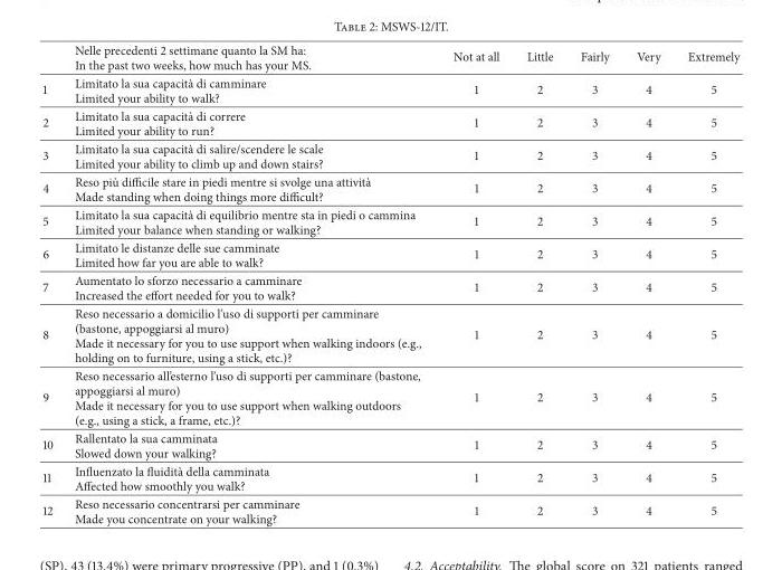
<table><thead><tr><td></td><td>Nelle precedenti 2 settimane quanto la SM ha: In the past two weeks, how much has your MS.</td><td>Not at all</td><td>Little</td><td>Fairly</td><td>Very</td><td>Extremely</td></tr></thead><tbody><tr><td>1</td><td>Limitato la sua capacit`a di camminare Limited your ability to walk?</td><td>1</td><td>2</td><td>3</td><td>4</td><td>5</td></tr><tr><td>2</td><td>Limitato la sua capacit`a di correre Limited your ability to run?</td><td>1</td><td>2</td><td>3</td><td>4</td><td>5</td></tr><tr><td>3</td><td>Limitato la sua capacit`a di salire/scendere le scale Limited your ability to climb up and down stairs?</td><td>1</td><td>2</td><td>3</td><td>4</td><td>5</td></tr><tr><td>4</td><td>Reso pi`u difficile stare in piedi mentre si svolge una attivit`a Made standing when doing things more difficult?</td><td>1</td><td>2</td><td>3</td><td>4</td><td>5</td></tr><tr><td>5</td><td>Limitato la sua capacit`a di equilibrio mentre sta in piedi o cammina Limited your balance when standing or walking?</td><td>1</td><td>2</td><td>3</td><td>4</td><td>5</td></tr><tr><td>6</td><td>Limitato le distanze delle sue camminate Limited how far you are able to walk?</td><td>1</td><td>2</td><td>3</td><td>4</td><td>5</td></tr><tr><td>7</td><td>Aumentato lo sforzo necessario a camminare Increased the effort needed for you to walk?</td><td>1</td><td>2</td><td>3</td><td>4</td><td>5</td></tr><tr><td>8</td><td>Reso necessario a domicilio l’uso di supporti per camminare (bastone, appoggiarsi al muro) Made it necessary for you to use support when walking indoors (e.g., holding on to furniture, using a stick, etc.)?</td><td>1</td><td>2</td><td>3</td><td>4</td><td>5</td></tr><tr><td>9</td><td>Reso necessario all’esterno l’uso di supporti per camminare (bastone, appoggiarsi al muro) Made it necessary for you to use support when walking outdoors (e.g., using a stick, a frame, etc.)?</td><td>1</td><td>2</td><td>3</td><td>4</td><td>5</td></tr><tr><td>10</td><td>Rallentato la sua camminata Slowed down your walking?</td><td>1</td><td>2</td><td>3</td><td>4</td><td>5</td></tr><tr><td>11</td><td>Influenzato la fluidit`a della camminata Affected how smoothly you walk?</td><td>1</td><td>2</td><td>3</td><td>4</td><td>5</td></tr><tr><td>12</td><td>Reso necessario concentrarsi per camminare Made you concentrate on your walking?</td><td>1</td><td>2</td><td>3</td><td>4</td><td>5</td></tr></tbody></table>